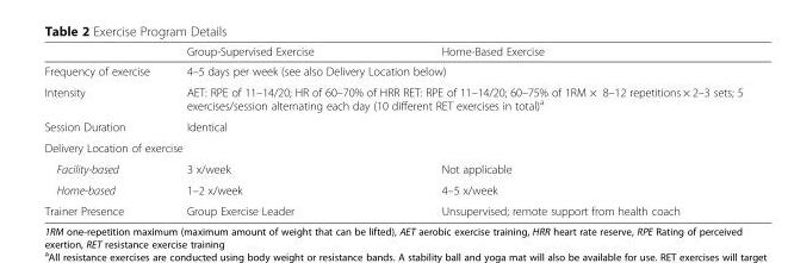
<table><thead><tr><td></td><td>Group-Supervised Exercise</td><td>Home-Based Exercise</td></tr></thead><tbody><tr><td>Frequency of exercise</td><td colspan="2">4–5 days per week (see also Delivery Location below)</td></tr><tr><td>Intensity</td><td colspan="2">AET: RPE of 11–14/20; HR of 60–70% of HRR RET: RPE of 11–14/20; 60–75% of 1RM × 8–12 repetitions × 2–3 sets; 5 exercises/session alternating each day (10 different RET exercises in total)<sup>a</sup></td></tr><tr><td>Session Duration</td><td colspan="2">Identical</td></tr><tr><td colspan="3">Delivery Location of exercise</td></tr><tr><td>Facility-based</td><td>3 x/week</td><td>Not applicable</td></tr><tr><td>Home-based</td><td>1–2 x/week</td><td>4–5 x/week</td></tr><tr><td>Trainer Presence</td><td>Group Exercise Leader</td><td>Unsupervised; remote support from health coach</td></tr></tbody></table>